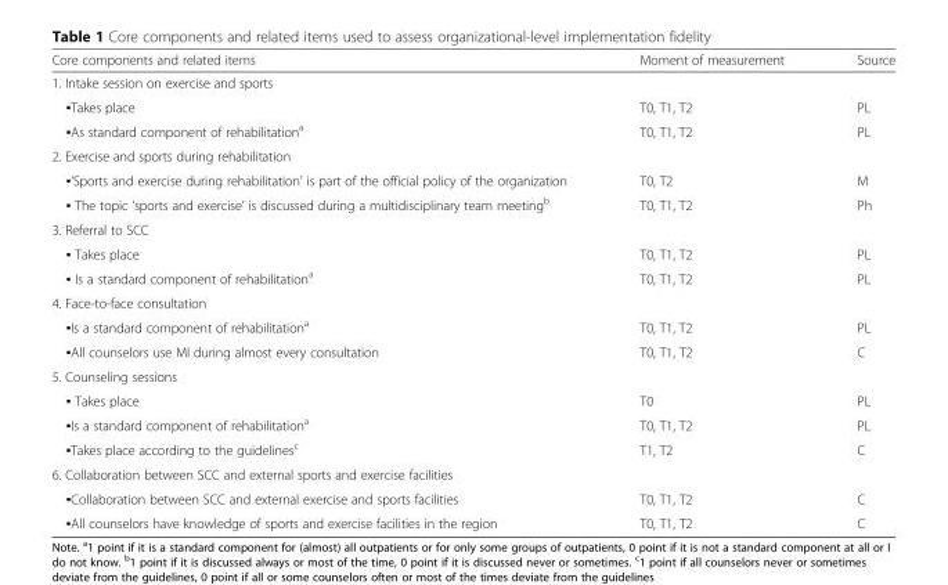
<table><thead><tr><td>Core components and related items</td><td>Moment of measurement</td><td>Source</td></tr></thead><tbody><tr><td colspan="3">1. Intake session on exercise and sports</td></tr><tr><td>▪Takes place</td><td>T0, T1, T2</td><td>PL</td></tr><tr><td>▪As standard component of rehabilitation<sup>a</sup></td><td>T0, T1, T2</td><td>PL</td></tr><tr><td colspan="3">2. Exercise and sports during rehabilitation</td></tr><tr><td>▪‘Sports and exercise during rehabilitation’ is part of the official policy of the organization</td><td>T0, T2</td><td>M</td></tr><tr><td>▪ The topic ‘sports and exercise’ is discussed during a multidisciplinary team meeting<sup>b</sup></td><td>T0, T1, T2</td><td>Ph</td></tr><tr><td colspan="3">3. Referral to SCC</td></tr><tr><td>▪ Takes place</td><td>T0, T1, T2</td><td>PL</td></tr><tr><td>▪ Is a standard component of rehabilitation<sup>a</sup></td><td>T0, T1, T2</td><td>PL</td></tr><tr><td colspan="3">4. Face-to-face consultation</td></tr><tr><td>▪Is a standard component of rehabilitation<sup>a</sup></td><td>T0, T1, T2</td><td>PL</td></tr><tr><td>▪All counselors use MI during almost every consultation</td><td>T0, T1, T2</td><td>C</td></tr><tr><td colspan="3">5. Counseling sessions</td></tr><tr><td>▪ Takes place</td><td>T0</td><td>PL</td></tr><tr><td>▪Is a standard component of rehabilitation<sup>a</sup></td><td>T0, T1, T2</td><td>PL</td></tr><tr><td>▪Takes place according to the guidelines<sup>c</sup></td><td>T1, T2</td><td>C</td></tr><tr><td colspan="3">6. Collaboration between SCC and external sports and exercise facilities</td></tr><tr><td>▪Collaboration between SCC and external exercise and sports facilities</td><td>T0, T1, T2</td><td>C</td></tr><tr><td>▪All counselors have knowledge of sports and exercise facilities in the region</td><td>T0, T1, T2</td><td>C</td></tr></tbody></table>